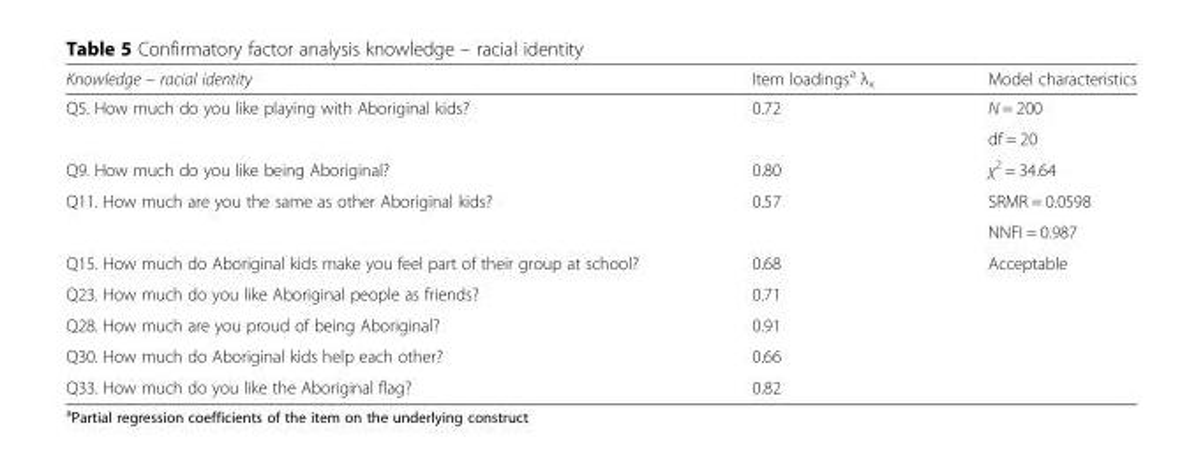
<table><thead><tr><td>Knowledge – racial identity</td><td>Item loadings<sup>a</sup> λ<sub>x</sub></td><td>Model characteristics</td></tr></thead><tbody><tr><td rowspan="2">Q5. How much do you like playing with Aboriginal kids?</td><td rowspan="2">0.72</td><td>N = 200</td></tr><tr><td>df = 20</td></tr><tr><td>Q9. How much do you like being Aboriginal?</td><td>0.80</td><td>χ<sup>2</sup> = 34.64</td></tr><tr><td rowspan="2">Q11. How much are you the same as other Aboriginal kids?</td><td rowspan="2">0.57</td><td>SRMR = 0.0598</td></tr><tr><td>NNFI = 0.987</td></tr><tr><td>Q15. How much do Aboriginal kids make you feel part of their group at school?</td><td>0.68</td><td rowspan="5">Acceptable</td></tr><tr><td>Q23. How much do you like Aboriginal people as friends?</td><td>0.71</td></tr><tr><td>Q28. How much are you proud of being Aboriginal?</td><td>0.91</td></tr><tr><td>Q30. How much do Aboriginal kids help each other?</td><td>0.66</td></tr><tr><td>Q33. How much do you like the Aboriginal flag?</td><td>0.82</td></tr></tbody></table>